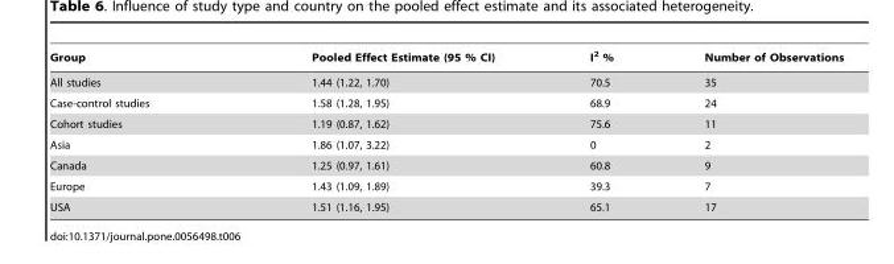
<table><thead><tr><td>Group</td><td>Pooled Effect Estimate (95 % CI)</td><td>I<sup>2</sup> %</td><td>Number of Observations</td></tr></thead><tbody><tr><td>All studies</td><td>1.44 (1.22, 1.70)</td><td>70.5</td><td>35</td></tr><tr><td>Case-control studies</td><td>1.58 (1.28, 1.95)</td><td>68.9</td><td>24</td></tr><tr><td>Cohort studies</td><td>1.19 (0.87, 1.62)</td><td>75.6</td><td>11</td></tr><tr><td>Asia</td><td>1.86 (1.07, 3.22)</td><td>0</td><td>2</td></tr><tr><td>Canada</td><td>1.25 (0.97, 1.61)</td><td>60.8</td><td>9</td></tr><tr><td>Europe</td><td>1.43 (1.09, 1.89)</td><td>39.3</td><td>7</td></tr><tr><td>USA</td><td>1.51 (1.16, 1.95)</td><td>65.1</td><td>17</td></tr></tbody></table>